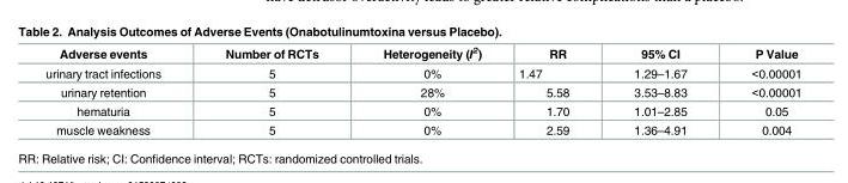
<table><thead><tr><td>Adverse events</td><td>Number of RCTs</td><td>Heterogeneity (I<sup>2</sup>)</td><td>RR</td><td>95% CI</td><td>P Value</td></tr></thead><tbody><tr><td>urinary tract infections</td><td>5</td><td>0%</td><td>1.47</td><td>1.29–1.67</td><td>&lt;0.00001</td></tr><tr><td>urinary retention</td><td>5</td><td>28%</td><td>5.58</td><td>3.53–8.83</td><td>&lt;0.00001</td></tr><tr><td>hematuria</td><td>5</td><td>0%</td><td>1.70</td><td>1.01–2.85</td><td>0.05</td></tr><tr><td>muscle weakness</td><td>5</td><td>0%</td><td>2.59</td><td>1.36–4.91</td><td>0.004</td></tr></tbody></table>